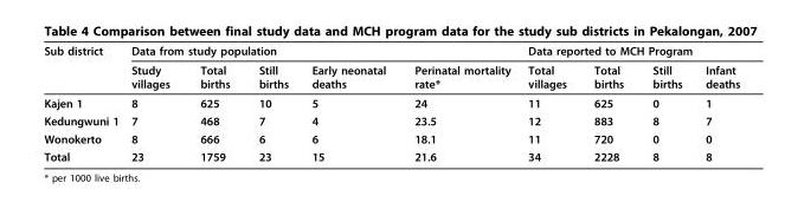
<table><thead><tr><td rowspan="2">Sub district</td><td colspan="5">Data from study population</td><td colspan="4">Data reported to MCH Program</td></tr><tr><td>Study villages</td><td>Total births</td><td>Still births</td><td>Early neonatal deaths</td><td>Perinatal mortality rate*</td><td>Total villages</td><td>Total births</td><td>Still births</td><td>Infant deaths</td></tr></thead><tbody><tr><td>Kajen 1</td><td>8</td><td>625</td><td>10</td><td>5</td><td>24</td><td>11</td><td>625</td><td>0</td><td>1</td></tr><tr><td>Kedungwuni 1</td><td>7</td><td>468</td><td>7</td><td>4</td><td>23.5</td><td>12</td><td>883</td><td>8</td><td>7</td></tr><tr><td>Wonokerto</td><td>8</td><td>666</td><td>6</td><td>6</td><td>18.1</td><td>11</td><td>720</td><td>0</td><td>0</td></tr><tr><td>Total</td><td>23</td><td>1759</td><td>23</td><td>15</td><td>21.6</td><td>34</td><td>2228</td><td>8</td><td>8</td></tr></tbody></table>